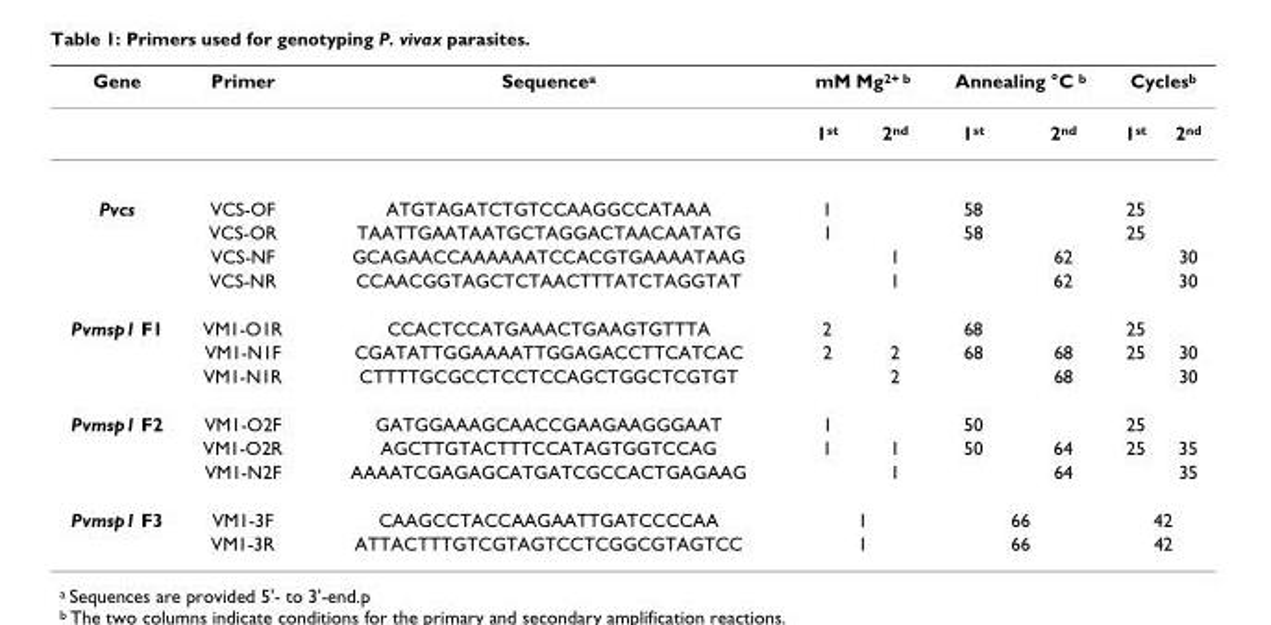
<table><thead><tr><td rowspan="2">Gene</td><td rowspan="2">Primer</td><td rowspan="2">Sequence<sup>a</sup></td><td colspan="2">mM Mg<sup>2+ b</sup></td><td colspan="2">Annealing °C <sup>b</sup></td><td colspan="2">Cycles<sup>b</sup></td></tr><tr><td>1<sup>st</sup></td><td>2<sup>nd</sup></td><td>1<sup>st</sup></td><td>2<sup>nd</sup></td><td>1<sup>st</sup></td><td>2<sup>nd</sup></td></tr></thead><tbody><tr><td rowspan="4">Pvcs</td><td>VCS-OF</td><td>ATGTAGATCTGTCCAAGGCCATAAA</td><td>1</td><td></td><td>58</td><td></td><td>25</td><td></td></tr><tr><td>VCS-OR</td><td>TAATTGAATAATGCTAGGACTAACAATATG</td><td>1</td><td></td><td>58</td><td></td><td>25</td><td></td></tr><tr><td>VCS-NF</td><td>GCAGAACCAAAAAATCCACGTGAAAATAAG</td><td></td><td>1</td><td></td><td>62</td><td></td><td>30</td></tr><tr><td>VCS-NR</td><td>CCAACGGTAGCTCTAACTTTATCTAGGTAT</td><td></td><td>1</td><td></td><td>62</td><td></td><td>30</td></tr><tr><td rowspan="3">Pvmsp1 F1</td><td>VM1-O1R</td><td>CCACTCCATGAAACTGAAGTGTTTA</td><td>2</td><td></td><td>68</td><td></td><td>25</td><td></td></tr><tr><td>VM1-N1F</td><td>CGATATTGGAAAATTGGAGACCTTCATCAC</td><td>2</td><td>2</td><td>68</td><td>68</td><td>25</td><td>30</td></tr><tr><td>VM1-N1R</td><td>CTTTTGCGCCTCCTCCAGCTGGCTCGTGT</td><td></td><td>2</td><td></td><td>68</td><td></td><td>30</td></tr><tr><td rowspan="3">Pvmsp1 F2</td><td>VM1-O2F</td><td>GATGGAAAGCAACCGAAGAAGGGAAT</td><td>1</td><td></td><td>50</td><td></td><td>25</td><td></td></tr><tr><td>VM1-O2R</td><td>AGCTTGTACTTTCCATAGTGGTCCAG</td><td>1</td><td>1</td><td>50</td><td>64</td><td>25</td><td>35</td></tr><tr><td>VM1-N2F</td><td>AAAATCGAGAGCATGATCGCCACTGAGAAG</td><td></td><td>1</td><td></td><td>64</td><td></td><td>35</td></tr><tr><td rowspan="2">Pvmsp1 F3</td><td>VM1-3F</td><td>CAAGCCTACCAAGAATTGATCCCCAA</td><td colspan="2">1</td><td colspan="2">66</td><td colspan="2">42</td></tr><tr><td>VM1-3R</td><td>ATTACTTTGTCGTAGTCCTCGGCGTAGTCC</td><td colspan="2">1</td><td colspan="2">66</td><td colspan="2">42</td></tr></tbody></table>